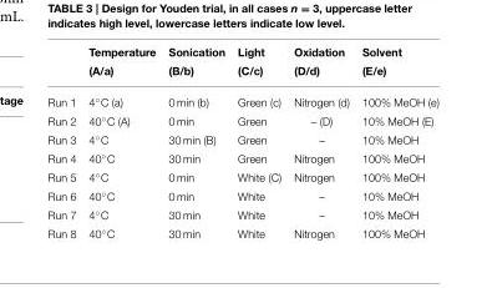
<table><thead><tr><td></td><td>Temperature (A/a)</td><td>Sonication (B/b)</td><td>Light (C/c)</td><td>Oxidation (D/d)</td><td>Solvent (E/e)</td></tr></thead><tbody><tr><td>Run 1</td><td>4◦C (a)</td><td>0 min (b)</td><td>Green (c)</td><td>Nitrogen (d)</td><td>100% MeOH (e)</td></tr><tr><td>Run 2</td><td>40◦C (A)</td><td>0 min</td><td>Green</td><td>– (D)</td><td>10% MeOH (E)</td></tr><tr><td>Run 3</td><td>4◦C</td><td>30 min (B)</td><td>Green</td><td>–</td><td>10% MeOH</td></tr><tr><td>Run 4</td><td>40◦C</td><td>30 min</td><td>Green</td><td>Nitrogen</td><td>100% MeOH</td></tr><tr><td>Run 5</td><td>4◦C</td><td>0 min</td><td>White (C)</td><td>Nitrogen</td><td>100% MeOH</td></tr><tr><td>Run 6</td><td>40◦C</td><td>0 min</td><td>White</td><td>–</td><td>10% MeOH</td></tr><tr><td>Run 7</td><td>4◦C</td><td>30 min</td><td>White</td><td>–</td><td>10% MeOH</td></tr><tr><td>Run 8</td><td>40◦C</td><td>30 min</td><td>White</td><td>Nitrogen</td><td>100% MeOH</td></tr></tbody></table>